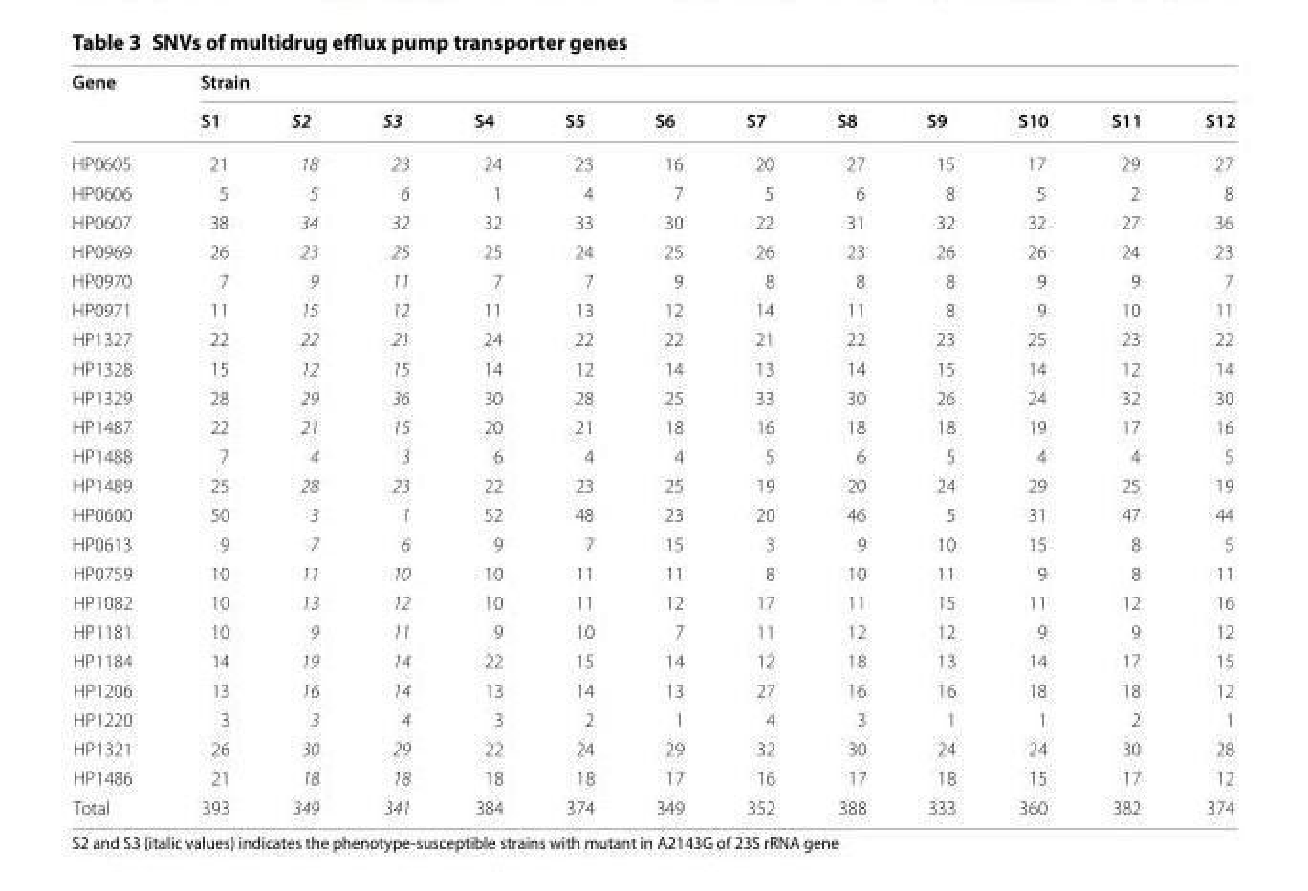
<table><thead><tr><td rowspan="2">Gene</td><td colspan="12">Strain</td></tr><tr><td>S1</td><td>S2</td><td>S3</td><td>S4</td><td>S5</td><td>S6</td><td>S7</td><td>S8</td><td>S9</td><td>S10</td><td>S11</td><td>S12</td></tr></thead><tbody><tr><td>HP0605</td><td>21</td><td>18</td><td>23</td><td>24</td><td>23</td><td>16</td><td>20</td><td>27</td><td>15</td><td>17</td><td>29</td><td>27</td></tr><tr><td>HP0606</td><td>5</td><td>5</td><td>6</td><td>1</td><td>4</td><td>7</td><td>5</td><td>6</td><td>8</td><td>5</td><td>2</td><td>8</td></tr><tr><td>HP0607</td><td>38</td><td>34</td><td>32</td><td>32</td><td>33</td><td>30</td><td>22</td><td>31</td><td>32</td><td>32</td><td>27</td><td>36</td></tr><tr><td>HP0969</td><td>26</td><td>23</td><td>25</td><td>25</td><td>24</td><td>25</td><td>26</td><td>23</td><td>26</td><td>26</td><td>24</td><td>23</td></tr><tr><td>HP0970</td><td>7</td><td>9</td><td>11</td><td>7</td><td>7</td><td>9</td><td>8</td><td>8</td><td>8</td><td>9</td><td>9</td><td>7</td></tr><tr><td>HP0971</td><td>11</td><td>15</td><td>12</td><td>11</td><td>13</td><td>12</td><td>14</td><td>11</td><td>8</td><td>9</td><td>10</td><td>11</td></tr><tr><td>HP1327</td><td>22</td><td>22</td><td>21</td><td>24</td><td>22</td><td>22</td><td>21</td><td>22</td><td>23</td><td>25</td><td>23</td><td>22</td></tr><tr><td>HP1328</td><td>15</td><td>12</td><td>15</td><td>14</td><td>12</td><td>14</td><td>13</td><td>14</td><td>15</td><td>14</td><td>12</td><td>14</td></tr><tr><td>HP1329</td><td>28</td><td>29</td><td>36</td><td>30</td><td>28</td><td>25</td><td>33</td><td>30</td><td>26</td><td>24</td><td>32</td><td>30</td></tr><tr><td>HP1487</td><td>22</td><td>21</td><td>15</td><td>20</td><td>21</td><td>18</td><td>16</td><td>18</td><td>18</td><td>19</td><td>17</td><td>16</td></tr><tr><td>HP1488</td><td>7</td><td>4</td><td>3</td><td>6</td><td>4</td><td>4</td><td>5</td><td>6</td><td>5</td><td>4</td><td>4</td><td>5</td></tr><tr><td>HP1489</td><td>25</td><td>28</td><td>23</td><td>22</td><td>23</td><td>25</td><td>19</td><td>20</td><td>24</td><td>29</td><td>25</td><td>19</td></tr><tr><td>HP0600</td><td>50</td><td>3</td><td>1</td><td>52</td><td>48</td><td>23</td><td>20</td><td>46</td><td>5</td><td>31</td><td>47</td><td>44</td></tr><tr><td>HP0613</td><td>9</td><td>7</td><td>6</td><td>9</td><td>7</td><td>15</td><td>3</td><td>9</td><td>10</td><td>15</td><td>8</td><td>5</td></tr><tr><td>HP0759</td><td>10</td><td>11</td><td>10</td><td>10</td><td>11</td><td>11</td><td>8</td><td>10</td><td>11</td><td>9</td><td>8</td><td>11</td></tr><tr><td>HP1082</td><td>10</td><td>13</td><td>12</td><td>10</td><td>11</td><td>12</td><td>17</td><td>11</td><td>15</td><td>11</td><td>12</td><td>16</td></tr><tr><td>HP1181</td><td>10</td><td>9</td><td>11</td><td>9</td><td>10</td><td>7</td><td>11</td><td>12</td><td>12</td><td>9</td><td>9</td><td>12</td></tr><tr><td>HP1184</td><td>14</td><td>19</td><td>14</td><td>22</td><td>15</td><td>14</td><td>12</td><td>18</td><td>13</td><td>14</td><td>17</td><td>15</td></tr><tr><td>HP1206</td><td>13</td><td>16</td><td>14</td><td>13</td><td>14</td><td>13</td><td>27</td><td>16</td><td>16</td><td>18</td><td>18</td><td>12</td></tr><tr><td>HP1220</td><td>3</td><td>3</td><td>4</td><td>3</td><td>2</td><td>1</td><td>4</td><td>3</td><td>1</td><td>1</td><td>2</td><td>1</td></tr><tr><td>HP1321</td><td>26</td><td>30</td><td>29</td><td>22</td><td>24</td><td>29</td><td>32</td><td>30</td><td>24</td><td>24</td><td>30</td><td>28</td></tr><tr><td>HP1486</td><td>21</td><td>18</td><td>18</td><td>18</td><td>18</td><td>17</td><td>16</td><td>17</td><td>18</td><td>15</td><td>17</td><td>12</td></tr><tr><td>Total</td><td>393</td><td>349</td><td>341</td><td>384</td><td>374</td><td>349</td><td>352</td><td>388</td><td>333</td><td>360</td><td>382</td><td>374</td></tr></tbody></table>